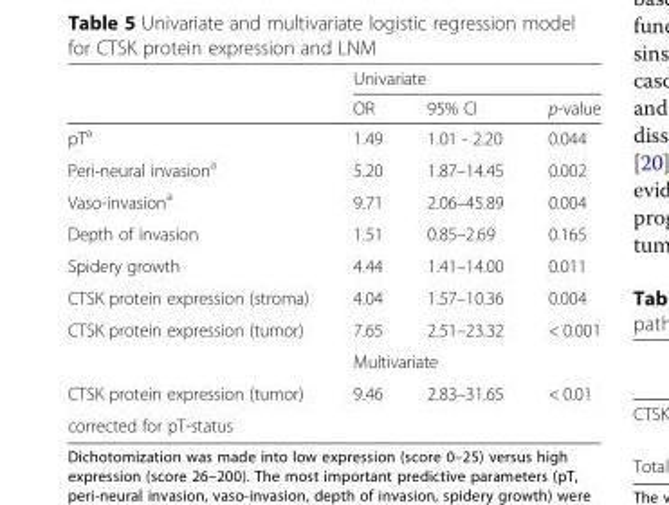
<table><thead><tr><td rowspan="2"></td><td colspan="3">Univariate</td></tr><tr><td>OR</td><td>95% CI</td><td>p-value</td></tr></thead><tbody><tr><td>pT<sup>a</sup></td><td>1.49</td><td>1.01 - 2.20</td><td>0.044</td></tr><tr><td>Peri-neural invasion<sup>a</sup></td><td>5.20</td><td>1.87–14.45</td><td>0.002</td></tr><tr><td>Vaso-invasion<sup>a</sup></td><td>9.71</td><td>2.06–45.89</td><td>0.004</td></tr><tr><td>Depth of invasion</td><td>1.51</td><td>0.85–2.69</td><td>0.165</td></tr><tr><td>Spidery growth</td><td>4.44</td><td>1.41–14.00</td><td>0.011</td></tr><tr><td>CTSK protein expression (stroma)</td><td>4.04</td><td>1.57–10.36</td><td>0.004</td></tr><tr><td rowspan="2">CTSK protein expression (tumor)</td><td>7.65</td><td>2.51–23.32</td><td>&lt; 0.001</td></tr><tr><td colspan="3">Multivariate</td></tr><tr><td>CTSK protein expression (tumor)</td><td>9.46</td><td>2.83–31.65</td><td>&lt; 0.01</td></tr><tr><td colspan="4">corrected for pT-status</td></tr></tbody></table>